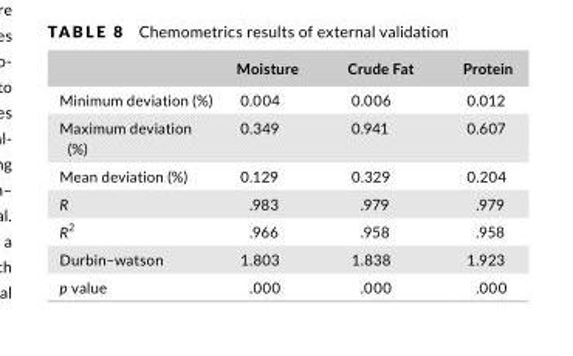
<table><thead><tr><td></td><td>Moisture</td><td>Crude Fat</td><td>Protein</td></tr></thead><tbody><tr><td>Minimum deviation (%)</td><td>0.004</td><td>0.006</td><td>0.012</td></tr><tr><td>Maximum deviation (%)</td><td>0.349</td><td>0.941</td><td>0.607</td></tr><tr><td>Mean deviation (%)</td><td>0.129</td><td>0.329</td><td>0.204</td></tr><tr><td>R</td><td>.983</td><td>.979</td><td>.979</td></tr><tr><td>R<sup>2</sup></td><td>.966</td><td>.958</td><td>.958</td></tr><tr><td>Durbin–watson</td><td>1.803</td><td>1.838</td><td>1.923</td></tr><tr><td>p value</td><td>.000</td><td>.000</td><td>.000</td></tr></tbody></table>